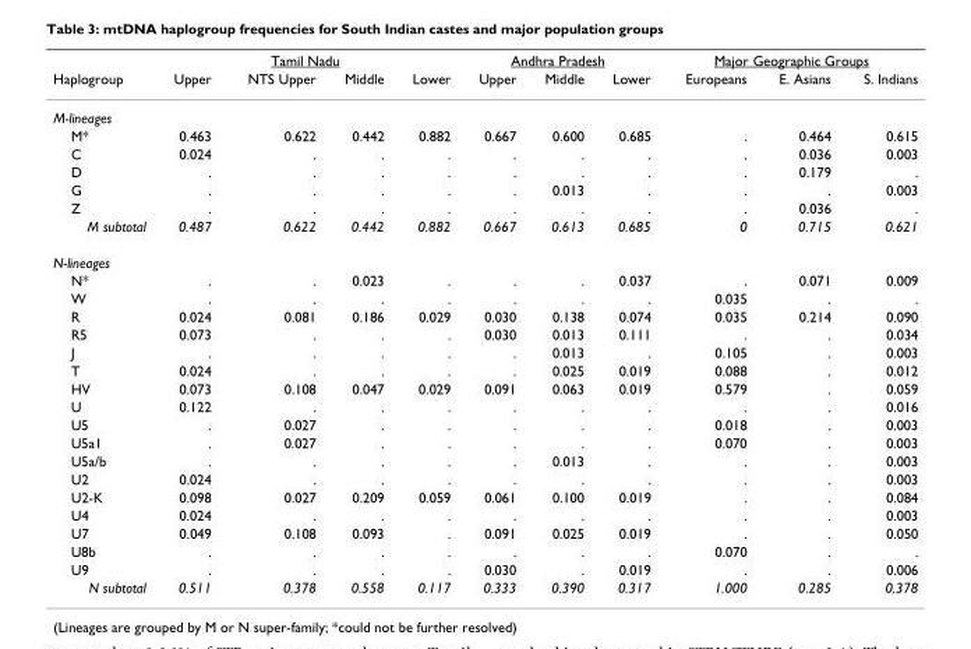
<table><thead><tr><td rowspan="2">Haplogroup</td><td colspan="4">Tamil Nadu</td><td colspan="3">Andhra Pradesh</td><td colspan="3">Major Geographic Groups</td></tr><tr><td>Upper</td><td>NTS Upper</td><td>Middle</td><td>Lower</td><td>Upper</td><td>Middle</td><td>Lower</td><td>Europeans</td><td>E. Asians</td><td>S. Indians</td></tr></thead><tbody><tr><td colspan="11">M-lineages</td></tr><tr><td>M*</td><td>0.463</td><td>0.622</td><td>0.442</td><td>0.882</td><td>0.667</td><td>0.600</td><td>0.685</td><td>.</td><td>0.464</td><td>0.615</td></tr><tr><td>C</td><td>0.024</td><td>.</td><td>.</td><td>.</td><td>.</td><td>.</td><td>.</td><td>.</td><td>0.036</td><td>0.003</td></tr><tr><td>D</td><td>.</td><td>.</td><td>.</td><td>.</td><td>.</td><td>.</td><td>.</td><td>.</td><td>0.179</td><td>.</td></tr><tr><td>G</td><td>.</td><td>.</td><td>.</td><td>.</td><td>.</td><td>0.013</td><td>.</td><td>.</td><td>.</td><td>0.003</td></tr><tr><td>Z</td><td>.</td><td>.</td><td>.</td><td>.</td><td>.</td><td>.</td><td>.</td><td>.</td><td>0.036</td><td>.</td></tr><tr><td>M subtotal</td><td>0.487</td><td>0.622</td><td>0.442</td><td>0.882</td><td>0.667</td><td>0.613</td><td>0.685</td><td>0</td><td>0.715</td><td>0.621</td></tr><tr><td colspan="11">N-lineages</td></tr><tr><td>N*</td><td>.</td><td>.</td><td>0.023</td><td>.</td><td>.</td><td>.</td><td>0.037</td><td>.</td><td>0.071</td><td>0.009</td></tr><tr><td>W</td><td>.</td><td>.</td><td>.</td><td>.</td><td>.</td><td>.</td><td>.</td><td>0.035</td><td>.</td><td>.</td></tr><tr><td>R</td><td>0.024</td><td>0.081</td><td>0.186</td><td>0.029</td><td>0.030</td><td>0.138</td><td>0.074</td><td>0.035</td><td>0.214</td><td>0.090</td></tr><tr><td>R5</td><td>0.073</td><td>.</td><td>.</td><td>.</td><td>0.030</td><td>0.013</td><td>0.111</td><td>.</td><td>.</td><td>0.034</td></tr><tr><td>J</td><td>.</td><td>.</td><td>.</td><td>.</td><td>.</td><td>0.013</td><td>.</td><td>0.105</td><td>.</td><td>0.003</td></tr><tr><td>T</td><td>0.024</td><td>.</td><td>.</td><td>.</td><td>.</td><td>0.025</td><td>0.019</td><td>0.088</td><td>.</td><td>0.012</td></tr><tr><td>HV</td><td>0.073</td><td>0.108</td><td>0.047</td><td>0.029</td><td>0.091</td><td>0.063</td><td>0.019</td><td>0.579</td><td>.</td><td>0.059</td></tr><tr><td>U</td><td>0.122</td><td>.</td><td>.</td><td>.</td><td>.</td><td>.</td><td>.</td><td>.</td><td>.</td><td>0.016</td></tr><tr><td>U5</td><td>.</td><td>0.027</td><td>.</td><td>.</td><td>.</td><td>.</td><td>.</td><td>0.018</td><td>.</td><td>0.003</td></tr><tr><td>U5a1</td><td>.</td><td>0.027</td><td>.</td><td>.</td><td>.</td><td>.</td><td>.</td><td>0.070</td><td>.</td><td>0.003</td></tr><tr><td>U5a/b</td><td>.</td><td>.</td><td>.</td><td>.</td><td>.</td><td>0.013</td><td>.</td><td>.</td><td>.</td><td>0.003</td></tr><tr><td>U2</td><td>0.024</td><td>.</td><td>.</td><td>.</td><td>.</td><td>.</td><td>.</td><td>.</td><td>.</td><td>0.003</td></tr><tr><td>U2-K</td><td>0.098</td><td>0.027</td><td>0.209</td><td>0.059</td><td>0.061</td><td>0.100</td><td>0.019</td><td>.</td><td>.</td><td>0.084</td></tr><tr><td>U4</td><td>0.024</td><td>.</td><td>.</td><td>.</td><td>.</td><td>.</td><td>.</td><td>.</td><td>.</td><td>0.003</td></tr><tr><td>U7</td><td>0.049</td><td>0.108</td><td>0.093</td><td>.</td><td>0.091</td><td>0.025</td><td>0.019</td><td>.</td><td>.</td><td>0.050</td></tr><tr><td>U8b</td><td>.</td><td>.</td><td>.</td><td>.</td><td>.</td><td>.</td><td>.</td><td>0.070</td><td>.</td><td>.</td></tr><tr><td>U9</td><td>.</td><td>.</td><td>.</td><td>.</td><td>0.030</td><td>.</td><td>0.019</td><td>.</td><td>.</td><td>0.006</td></tr><tr><td>N subtotal</td><td>0.511</td><td>0.378</td><td>0.558</td><td>0.117</td><td>0.333</td><td>0.390</td><td>0.317</td><td>1.000</td><td>0.285</td><td>0.378</td></tr></tbody></table>